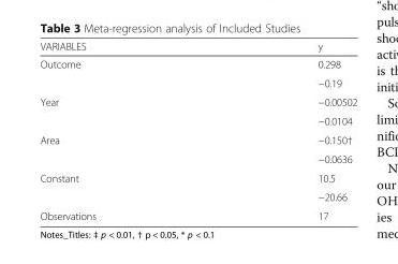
<table><thead><tr><td>VARIABLES</td><td>y</td></tr></thead><tbody><tr><td rowspan="2">Outcome</td><td>0.298</td></tr><tr><td>−0.19</td></tr><tr><td rowspan="2">Year</td><td>−0.00502</td></tr><tr><td>−0.0104</td></tr><tr><td rowspan="2">Area</td><td>−0.150†</td></tr><tr><td>−0.0636</td></tr><tr><td rowspan="2">Constant</td><td>10.5</td></tr><tr><td>−20.66</td></tr><tr><td>Observations</td><td>17</td></tr></tbody></table>